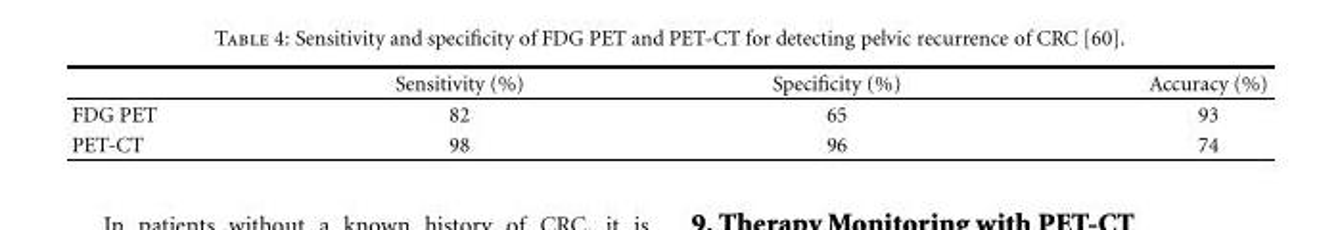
<table><thead><tr><td></td><td>Sensitivity (%)</td><td>Specificity (%)</td><td>Accuracy (%)</td></tr></thead><tbody><tr><td>FDG PET</td><td>82</td><td>65</td><td>93</td></tr><tr><td>PET-CT</td><td>98</td><td>96</td><td>74</td></tr></tbody></table>